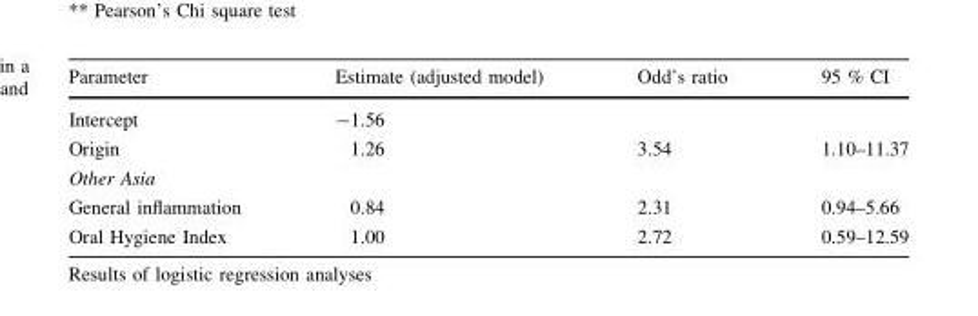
<table><thead><tr><td>Parameter</td><td>Estimate (adjusted model)</td><td>Odd’s ratio</td><td>95 % CI</td></tr></thead><tbody><tr><td>Intercept</td><td>-1.56</td><td></td><td></td></tr><tr><td>Origin</td><td>1.26</td><td>3.54</td><td>1.10–11.37</td></tr><tr><td colspan="4">Other Asia</td></tr><tr><td>General inflammation</td><td>0.84</td><td>2.31</td><td>0.94–5.66</td></tr><tr><td>Oral Hygiene Index</td><td>1.00</td><td>2.72</td><td>0.59–12.59</td></tr></tbody></table>